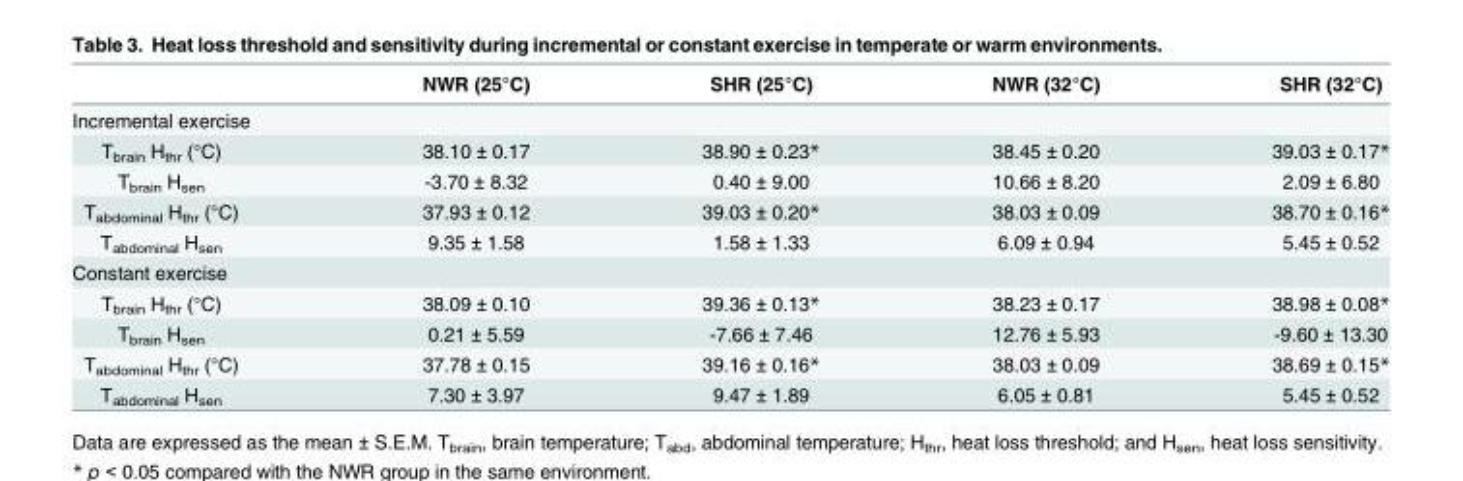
<table><thead><tr><td></td><td>NWR (25°C)</td><td>SHR (25°C)</td><td>NWR (32°C)</td><td>SHR (32°C)</td></tr></thead><tbody><tr><td colspan="5">Incremental exercise</td></tr><tr><td>T<sub>brain</sub> H<sub>thr</sub> (°C)</td><td>38.10 ± 0.17</td><td>38.90 ± 0.23*</td><td>38.45 ± 0.20</td><td>39.03 ± 0.17*</td></tr><tr><td>T<sub>brain</sub> H<sub>sen</sub></td><td>-3.70 ± 8.32</td><td>0.40 ± 9.00</td><td>10.66 ± 8.20</td><td>2.09 ± 6.80</td></tr><tr><td>T<sub>abdominal</sub> H<sub>thr</sub> (°C)</td><td>37.93 ± 0.12</td><td>39.03 ± 0.20*</td><td>38.03 ± 0.09</td><td>38.70 ± 0.16*</td></tr><tr><td>T<sub>abdominal</sub> H<sub>sen</sub></td><td>9.35 ± 1.58</td><td>1.58 ± 1.33</td><td>6.09 ± 0.94</td><td>5.45 ± 0.52</td></tr><tr><td colspan="5">Constant exercise</td></tr><tr><td>T<sub>brain</sub> H<sub>thr</sub> (°C)</td><td>38.09 ± 0.10</td><td>39.36 ± 0.13*</td><td>38.23 ± 0.17</td><td>38.98 ± 0.08*</td></tr><tr><td>T<sub>brain</sub> H<sub>sen</sub></td><td>0.21 ± 5.59</td><td>-7.66 ± 7.46</td><td>12.76 ± 5.93</td><td>-9.60 ± 13.30</td></tr><tr><td>T<sub>abdominal</sub> H<sub>thr</sub> (°C)</td><td>37.78 ± 0.15</td><td>39.16 ± 0.16*</td><td>38.03 ± 0.09</td><td>38.69 ± 0.15*</td></tr><tr><td>T<sub>abdominal</sub> H<sub>sen</sub></td><td>7.30 ± 3.97</td><td>9.47 ± 1.89</td><td>6.05 ± 0.81</td><td>5.45 ± 0.52</td></tr></tbody></table>